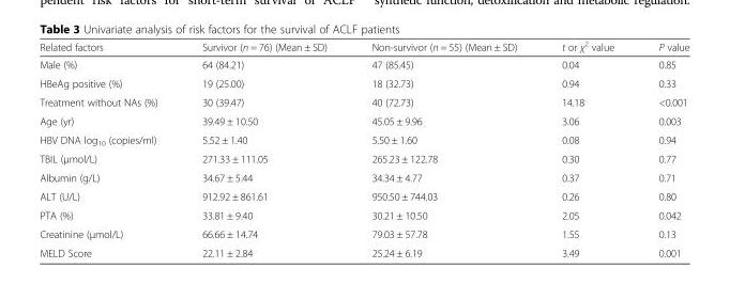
<table><thead><tr><td>Related factors</td><td>Survivor (n = 76) (Mean ± SD)</td><td>Non-survivor (n = 55) (Mean ± SD)</td><td>t or χ<sup>2</sup> value</td><td>P value</td></tr></thead><tbody><tr><td>Male (%)</td><td>64 (84.21)</td><td>47 (85.45)</td><td>0.04</td><td>0.85</td></tr><tr><td>HBeAg positive (%)</td><td>19 (25.00)</td><td>18 (32.73)</td><td>0.94</td><td>0.33</td></tr><tr><td>Treatment without NAs (%)</td><td>30 (39.47)</td><td>40 (72.73)</td><td>14.18</td><td>&lt;0.001</td></tr><tr><td>Age (yr)</td><td>39.49 ± 10.50</td><td>45.05 ± 9.96</td><td>3.06</td><td>0.003</td></tr><tr><td>HBV DNA log<sub>10</sub> (copies/ml)</td><td>5.52 ± 1.40</td><td>5.50 ± 1.60</td><td>0.08</td><td>0.94</td></tr><tr><td>TBIL (μmol/L)</td><td>271.33 ± 111.05</td><td>265.23 ± 122.78</td><td>0.30</td><td>0.77</td></tr><tr><td>Albumin (g/L)</td><td>34.67 ± 5.44</td><td>34.34 ± 4.77</td><td>0.37</td><td>0.71</td></tr><tr><td>ALT (U/L)</td><td>912.92 ± 861.61</td><td>950.50 ± 744.03</td><td>0.26</td><td>0.80</td></tr><tr><td>PTA (%)</td><td>33.81 ± 9.40</td><td>30.21 ± 10.50</td><td>2.05</td><td>0.042</td></tr><tr><td>Creatinine (μmol/L)</td><td>66.66 ± 14.74</td><td>79.03 ± 57.78</td><td>1.55</td><td>0.13</td></tr><tr><td>MELD Score</td><td>22.11 ± 2.84</td><td>25.24 ± 6.19</td><td>3.49</td><td>0.001</td></tr></tbody></table>